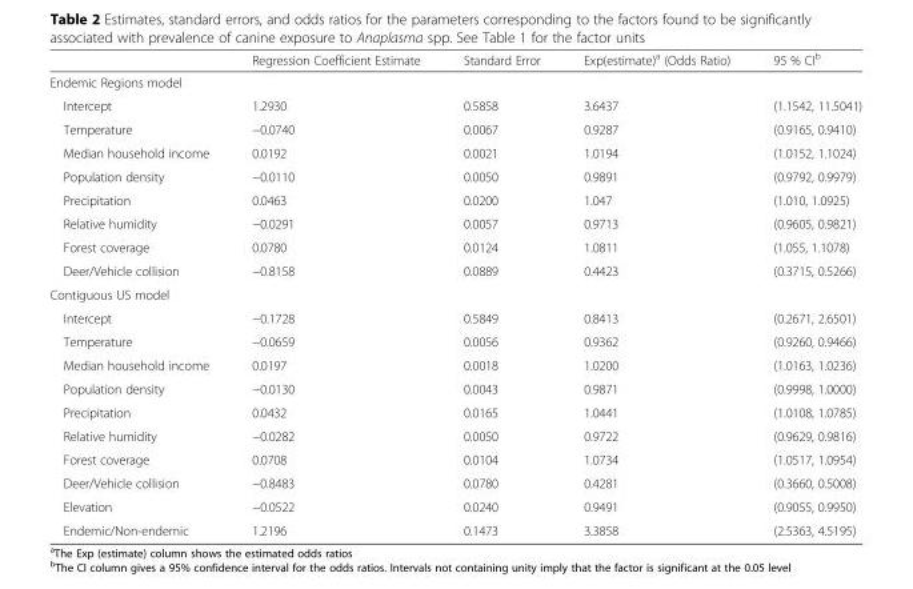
<table><thead><tr><td></td><td>Regression Coefficient Estimate</td><td>Standard Error</td><td>Exp(estimate)<sup>a</sup> (Odds Ratio)</td><td>95 % CI<sup>b</sup></td></tr></thead><tbody><tr><td colspan="5">Endemic Regions model</td></tr><tr><td>Intercept</td><td>1.2930</td><td>0.5858</td><td>3.6437</td><td>(1.1542, 11.5041)</td></tr><tr><td>Temperature</td><td>−0.0740</td><td>0.0067</td><td>0.9287</td><td>(0.9165, 0.9410)</td></tr><tr><td>Median household income</td><td>0.0192</td><td>0.0021</td><td>1.0194</td><td>(1.0152, 1.1024)</td></tr><tr><td>Population density</td><td>−0.0110</td><td>0.0050</td><td>0.9891</td><td>(0.9792, 0.9979)</td></tr><tr><td>Precipitation</td><td>0.0463</td><td>0.0200</td><td>1.047</td><td>(1.010, 1.0925)</td></tr><tr><td>Relative humidity</td><td>−0.0291</td><td>0.0057</td><td>0.9713</td><td>(0.9605, 0.9821)</td></tr><tr><td>Forest coverage</td><td>0.0780</td><td>0.0124</td><td>1.0811</td><td>(1.055, 1.1078)</td></tr><tr><td>Deer/Vehicle collision</td><td>−0.8158</td><td>0.0889</td><td>0.4423</td><td>(0.3715, 0.5266)</td></tr><tr><td colspan="5">Contiguous US model</td></tr><tr><td>Intercept</td><td>−0.1728</td><td>0.5849</td><td>0.8413</td><td>(0.2671, 2.6501)</td></tr><tr><td>Temperature</td><td>−0.0659</td><td>0.0056</td><td>0.9362</td><td>(0.9260, 0.9466)</td></tr><tr><td>Median household income</td><td>0.0197</td><td>0.0018</td><td>1.0200</td><td>(1.0163, 1.0236)</td></tr><tr><td>Population density</td><td>−0.0130</td><td>0.0043</td><td>0.9871</td><td>(0.9998, 1.0000)</td></tr><tr><td>Precipitation</td><td>0.0432</td><td>0.0165</td><td>1.0441</td><td>(1.0108, 1.0785)</td></tr><tr><td>Relative humidity</td><td>−0.0282</td><td>0.0050</td><td>0.9722</td><td>(0.9629, 0.9816)</td></tr><tr><td>Forest coverage</td><td>0.0708</td><td>0.0104</td><td>1.0734</td><td>(1.0517, 1.0954)</td></tr><tr><td>Deer/Vehicle collision</td><td>−0.8483</td><td>0.0780</td><td>0.4281</td><td>(0.3660, 0.5008)</td></tr><tr><td>Elevation</td><td>−0.0522</td><td>0.0240</td><td>0.9491</td><td>(0.9055, 0.9950)</td></tr><tr><td>Endemic/Non-endemic</td><td>1.2196</td><td>0.1473</td><td>3.3858</td><td>(2.5363, 4.5195)</td></tr></tbody></table>